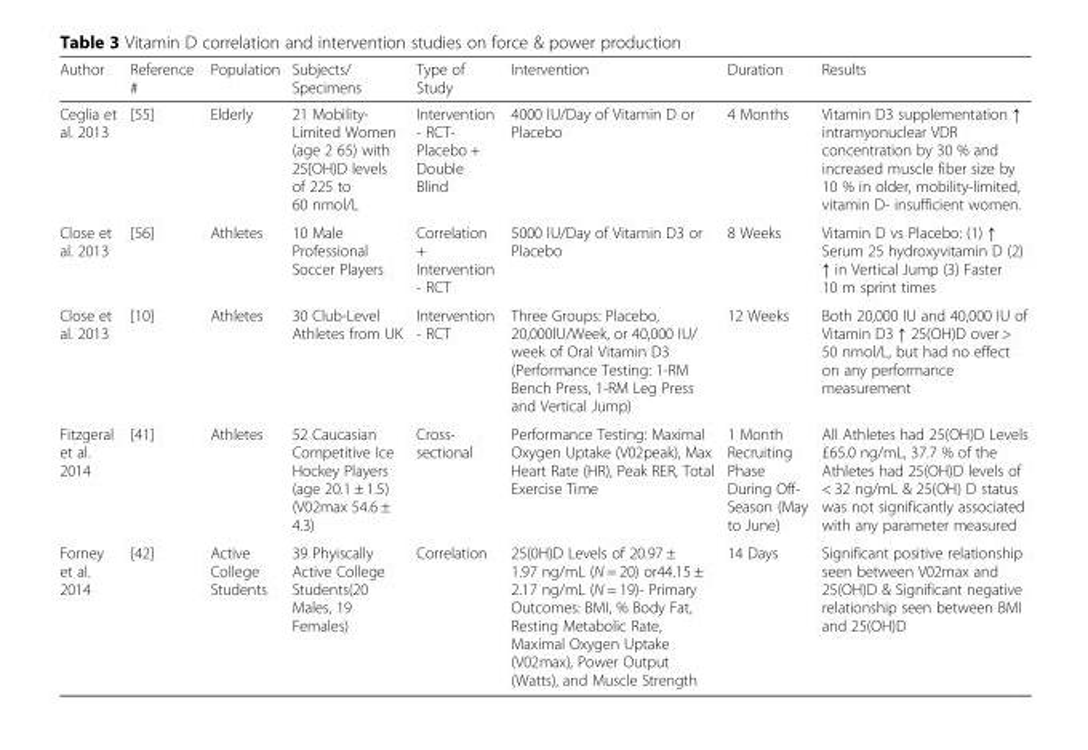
<table><thead><tr><td>Author</td><td>Reference #</td><td>Population</td><td>Subjects/ Specimens</td><td>Type of Study</td><td>Intervention</td><td>Duration</td><td>Results</td></tr></thead><tbody><tr><td>Ceglia et al. 2013</td><td>[55]</td><td>Elderly</td><td>21 Mobility- Limited Women (age 2 65) with 25{OH)D levels of 225 to 60 nmol/L</td><td>Intervention - RCT- Placebo + Double Blind</td><td>4000 lU/Day of Vitamin D or Placebo</td><td>4 Months</td><td>Vitamin D3 supplementation ↑ intramyonuclear VDR concentration by 30 % and increased muscle fiber size by 10 % in older, mobility-limited, vitamin D- insufficient women.</td></tr><tr><td>Close et al. 2013</td><td>[56]</td><td>Athletes</td><td>10 Male Professional Soccer Players</td><td>Correlation + Intervention - RCT</td><td>5000 lU/Day of Vitamin D3 or Placebo</td><td>8 Weeks</td><td>Vitamin D vs Placebo: (1) ↑ Serum 25 hydroxyvitamin D (2) ↑ in Vertical Jump (3) Faster 10 m sprint times</td></tr><tr><td>Close et al. 2013</td><td>[10]</td><td>Athletes</td><td>30 Club-Level Athletes from UK</td><td>Intervention - RCT</td><td>Three Groups: Placebo, 20,000lU/Week, or 40,000 IU/ week of Oral Vitamin D3 (Performance Testing: 1-RM Bench Press, 1-RM Leg Press and Vertical Jump)</td><td>12 Weeks</td><td>Both 20,000 IU and 40,000 IU of Vitamin D3 ↑ 25(OH)D over &gt; 50 nmol/L, but had no effect on any performance measurement</td></tr><tr><td>Fitzgeral et al. 2014</td><td>[41]</td><td>Athletes</td><td>52 Caucasian Competitive Ice Hockey Players (age 20.1 ± 1.5) (V02max 54.6 ± 4.3)</td><td>Cross- sectional</td><td>Performance Testing: Maximal Oxygen Uptake (V02peak), Max Heart Rate (HR), Peak RER, Total Exercise Time</td><td>1 Month Recruiting Phase During Off- Season (May to June)</td><td>All Athletes had 25(OH)D Levels £65.0 ng/mL, 37.7 % of the Athletes had 25(OH)D levels of &lt; 32 ng/mL &amp; 25(OH) D status was not significantly associated with any parameter measured</td></tr><tr><td>Forney et al. 2014</td><td>[42]</td><td>Active College Students</td><td>39 Phyiscally Active College Students(20 Males, 19 Females)</td><td>Correlation</td><td>25(0H)D Levels of 20.97 ± 1.97 ng/mL (N = 20) or44.15 ± 2.17 ng/mL (N = 19)- Primary Outcomes: BMI, % Body Fat, Resting Metabolic Rate, Maximal Oxygen Uptake (V02max), Power Output (Watts), and Muscle Strength</td><td>14 Days</td><td>Significant positive relationship seen between V02max and 25(OH)D &amp; Significant negative relationship seen between BMI and 25(OH)D</td></tr></tbody></table>